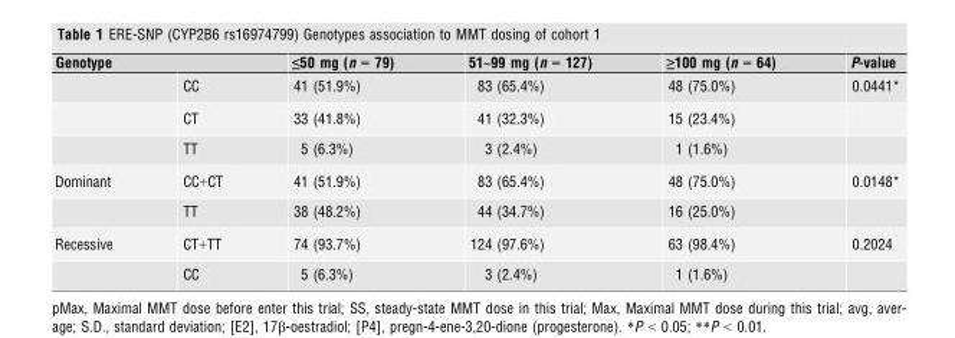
<table><thead><tr><td colspan="2">Genotype</td><td rowspan="2">≤50 mg (n = 79) 41 (51.9%)</td><td rowspan="2">51~99 mg (n = 127) 83 (65.4%)</td><td rowspan="2">≥100 mg (n = 64) 48 (75.0%)</td><td rowspan="2">P-value 0.0441*</td></tr><tr><td></td><td>CC</td></tr></thead><tbody><tr><td></td><td>CT</td><td>33 (41.8%)</td><td>41 (32.3%)</td><td>15 (23.4%)</td><td></td></tr><tr><td></td><td>TT</td><td>5 (6.3%)</td><td>3 (2.4%)</td><td>1 (1.6%)</td><td></td></tr><tr><td rowspan="2">Dominant</td><td>CC+CT</td><td>41 (51.9%)</td><td>83 (65.4%)</td><td>48 (75.0%)</td><td>0.0148*</td></tr><tr><td>TT</td><td>38 (48.2%)</td><td>44 (34.7%)</td><td>16 (25.0%)</td><td></td></tr><tr><td rowspan="2">Recessive</td><td>CT+TT</td><td>74 (93.7%)</td><td>124 (97.6%)</td><td>63 (98.4%)</td><td>0.2024</td></tr><tr><td>CC</td><td>5 (6.3%)</td><td>3 (2.4%)</td><td>1 (1.6%)</td><td></td></tr></tbody></table>